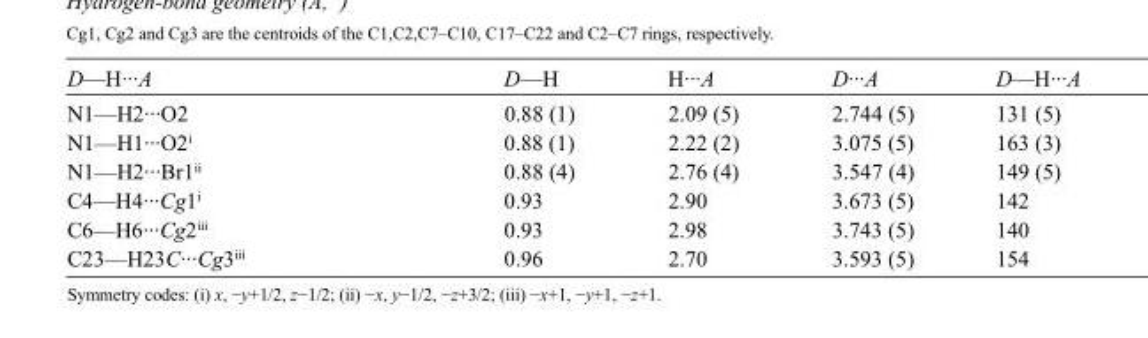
<table><tbody><tr><td>D—H···A</td><td>D—H</td><td>H···A</td><td>D···A</td><td>D—H···A</td></tr><tr><td>N1—H2···O2</td><td>0.88 (1)</td><td>2.09 (5)</td><td>2.744 (5)</td><td>131 (5)</td></tr><tr><td>N1—H1···O2<sup>i</sup></td><td>0.88 (1)</td><td>2.22 (2)</td><td>3.075 (5)</td><td>163 (3)</td></tr><tr><td>N1—H2···Br1<sup>ii</sup></td><td>0.88 (4)</td><td>2.76 (4)</td><td>3.547 (4)</td><td>149 (5)</td></tr><tr><td>C4—H4···Cg1<sup>i</sup></td><td>0.93</td><td>2.90</td><td>3.673 (5)</td><td>142</td></tr><tr><td>C6—H6···Cg2<sup>iii</sup></td><td>0.93</td><td>2.98</td><td>3.743 (5)</td><td>140</td></tr><tr><td>C23—H23C···Cg3<sup>iii</sup></td><td>0.96</td><td>2.70</td><td>3.593 (5)</td><td>154</td></tr></tbody></table>